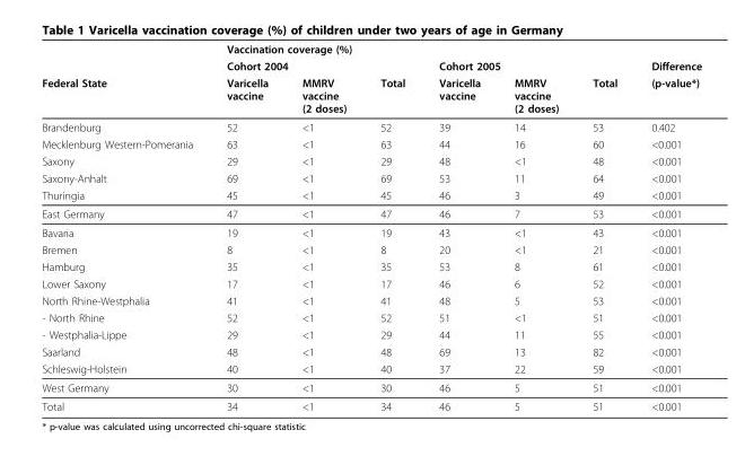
<table><thead><tr><td rowspan="3">Federal State</td><td colspan="6">Vaccination coverage (%)</td><td rowspan="3">Difference (p-value*)</td></tr><tr><td colspan="3">Cohort 2004</td><td colspan="3">Cohort 2005</td></tr><tr><td>Varicella vaccine</td><td>MMRV vaccine (2 doses)</td><td>Total</td><td>Varicella vaccine</td><td>MMRV vaccine (2 doses)</td><td>Total</td></tr></thead><tbody><tr><td>Brandenburg</td><td>52</td><td>&lt;1</td><td>52</td><td>39</td><td>14</td><td>53</td><td>0.402</td></tr><tr><td>Mecklenburg Western-Pomerania</td><td>63</td><td>&lt;1</td><td>63</td><td>44</td><td>16</td><td>60</td><td>&lt;0.001</td></tr><tr><td>Saxony</td><td>29</td><td>&lt;1</td><td>29</td><td>48</td><td>&lt;1</td><td>48</td><td>&lt;0.001</td></tr><tr><td>Saxony-Anhalt</td><td>69</td><td>&lt;1</td><td>69</td><td>53</td><td>11</td><td>64</td><td>&lt;0.001</td></tr><tr><td>Thuringia</td><td>45</td><td>&lt;1</td><td>45</td><td>46</td><td>3</td><td>49</td><td>&lt;0.001</td></tr><tr><td>East Germany</td><td>47</td><td>&lt;1</td><td>47</td><td>46</td><td>7</td><td>53</td><td>&lt;0.001</td></tr><tr><td>Bavaria</td><td>19</td><td>&lt;1</td><td>19</td><td>43</td><td>&lt;1</td><td>43</td><td>&lt;0.001</td></tr><tr><td>Bremen</td><td>8</td><td>&lt;1</td><td>8</td><td>20</td><td>&lt;1</td><td>21</td><td>&lt;0.001</td></tr><tr><td>Hamburg</td><td>35</td><td>&lt;1</td><td>35</td><td>53</td><td>8</td><td>61</td><td>&lt;0.001</td></tr><tr><td>Lower Saxony</td><td>17</td><td>&lt;1</td><td>17</td><td>46</td><td>6</td><td>52</td><td>&lt;0.001</td></tr><tr><td>North Rhine-Westphalia</td><td>41</td><td>&lt;1</td><td>41</td><td>48</td><td>5</td><td>53</td><td>&lt;0.001</td></tr><tr><td>- North Rhine</td><td>52</td><td>&lt;1</td><td>52</td><td>51</td><td>&lt;1</td><td>51</td><td>&lt;0.001</td></tr><tr><td>- Westphalia-Lippe</td><td>29</td><td>&lt;1</td><td>29</td><td>44</td><td>11</td><td>55</td><td>&lt;0.001</td></tr><tr><td>Saarland</td><td>48</td><td>&lt;1</td><td>48</td><td>69</td><td>13</td><td>82</td><td>&lt;0.001</td></tr><tr><td>Schleswig-Holstein</td><td>40</td><td>&lt;1</td><td>40</td><td>37</td><td>22</td><td>59</td><td>&lt;0.001</td></tr><tr><td>West Germany</td><td>30</td><td>&lt;1</td><td>30</td><td>46</td><td>5</td><td>51</td><td>&lt;0.001</td></tr><tr><td>Total</td><td>34</td><td>&lt;1</td><td>34</td><td>46</td><td>5</td><td>51</td><td>&lt;0.001</td></tr></tbody></table>